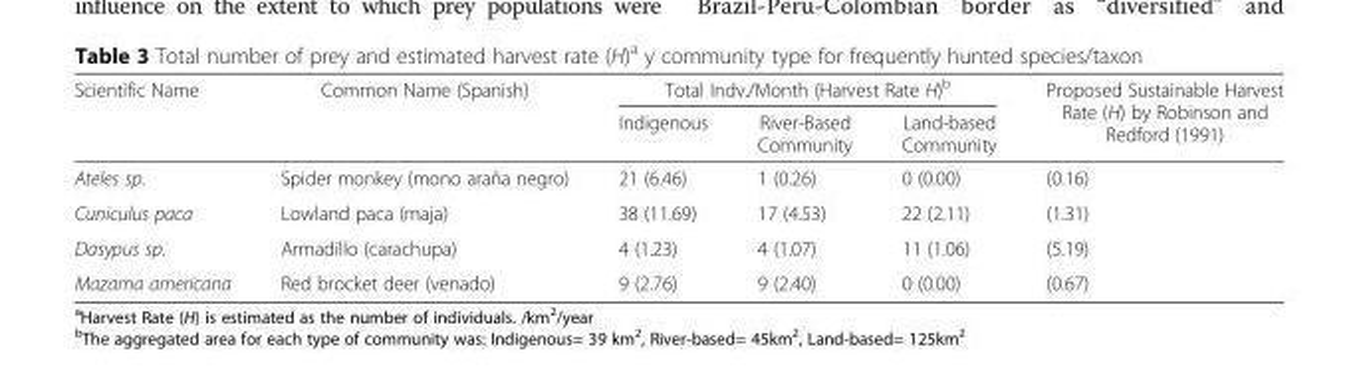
<table><thead><tr><td rowspan="2">Scientific Name</td><td rowspan="2">Common Name (Spanish)</td><td colspan="3">Total Indv./Month (Harvest Rate H)<sup>b</sup></td><td rowspan="2">Proposed Sustainable Harvest Rate (H) by Robinson and Redford (1991)</td></tr><tr><td>Indigenous</td><td>River-Based Community</td><td>Land-based Community</td></tr></thead><tbody><tr><td>Ateles sp.</td><td>Spider monkey (mono araña negro)</td><td>21 (6.46)</td><td>1 (0.26)</td><td>0 (0.00)</td><td>(0.16)</td></tr><tr><td>Cuniculus paca</td><td>Lowland paca (maja)</td><td>38 (11.69)</td><td>17 (4.53)</td><td>22 (2.11)</td><td>(1.31)</td></tr><tr><td>Dasypus sp.</td><td>Armadillo (carachupa)</td><td>4 (1.23)</td><td>4 (1.07)</td><td>11 (1.06)</td><td>(5.19)</td></tr><tr><td>Mazama americana</td><td>Red brocket deer (venado)</td><td>9 (2.76)</td><td>9 (2.40)</td><td>0 (0.00)</td><td>(0.67)</td></tr></tbody></table>